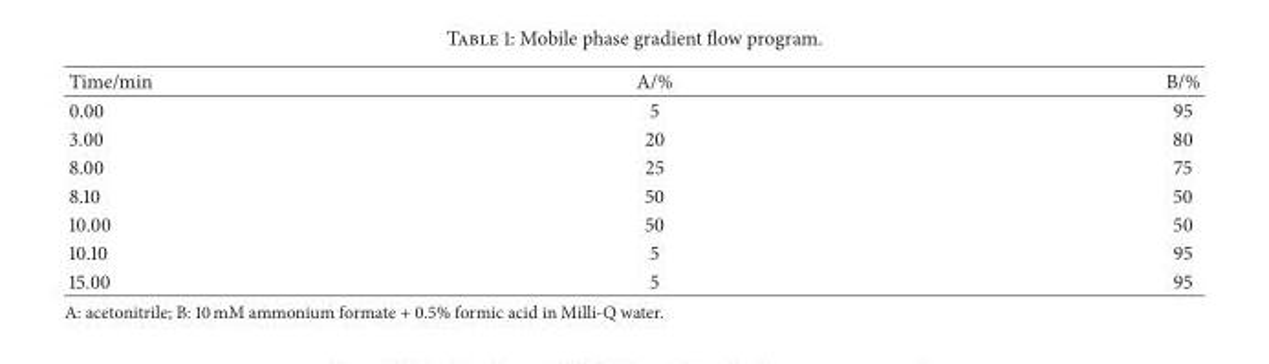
<table><thead><tr><td>Time/min</td><td>A/%</td><td>B/%</td></tr></thead><tbody><tr><td>0.00</td><td>5</td><td>95</td></tr><tr><td>3.00</td><td>20</td><td>80</td></tr><tr><td>8.00</td><td>25</td><td>75</td></tr><tr><td>8.10</td><td>50</td><td>50</td></tr><tr><td>10.00</td><td>50</td><td>50</td></tr><tr><td>10.10</td><td>5</td><td>95</td></tr><tr><td>15.00</td><td>5</td><td>95</td></tr></tbody></table>